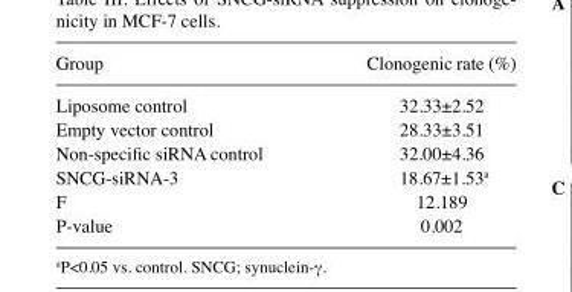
<table><thead><tr><td>Group</td><td>Clonogenic rate (%)</td></tr></thead><tbody><tr><td>Liposome control</td><td>32.33±2.52</td></tr><tr><td>Empty vector control</td><td>28.33±3.51</td></tr><tr><td>Non‑specific siRNA control</td><td>32.00±4.36</td></tr><tr><td>SNCG-siRNA-3</td><td>18.67±1.53<sup>a</sup></td></tr><tr><td>F</td><td>12.189</td></tr><tr><td>P-value</td><td>0.002</td></tr></tbody></table>